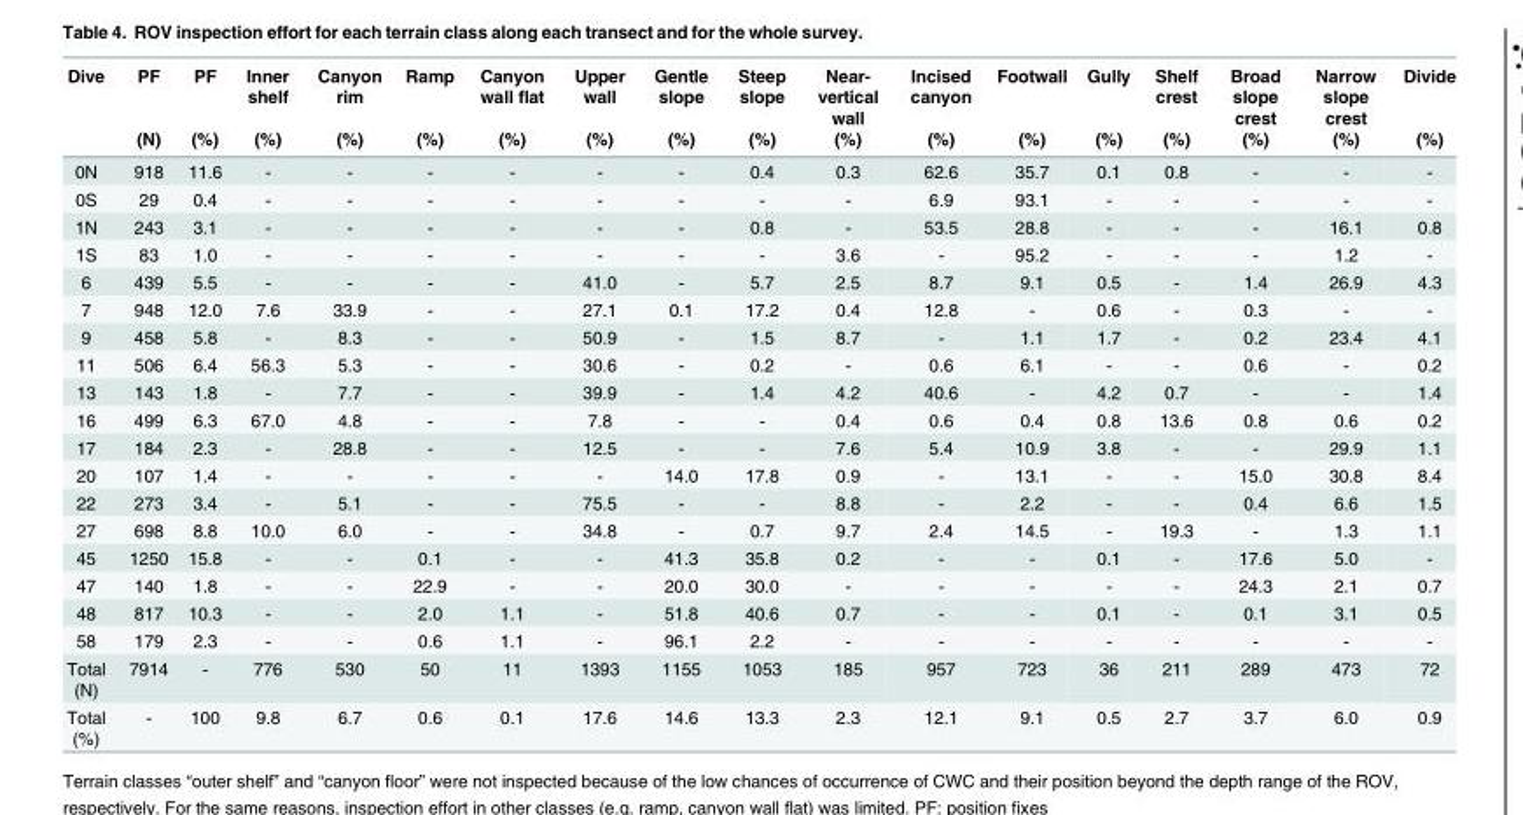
<table><thead><tr><td rowspan="2">Dive</td><td rowspan="2">PF (N)</td><td rowspan="2">PF (%)</td><td rowspan="2">Inner shelf (%)</td><td rowspan="2">Canyon rim (%)</td><td rowspan="2">Ramp (%)</td><td rowspan="2">Canyon wall flat (%)</td><td rowspan="2">Upper wall (%)</td><td rowspan="2">Gentle slope (%)</td><td rowspan="2">Steep slope (%)</td><td rowspan="2">Near- vertical wall (%)</td><td rowspan="2">Incised canyon (%)</td><td rowspan="2">Footwall (%)</td><td rowspan="2">Gully (%)</td><td rowspan="2">Shelf crest (%)</td><td rowspan="2">Broad slope crest (%)</td><td rowspan="2">Narrow slope crest (%)</td><td rowspan="2">Divide (%)</td></tr><tr></tr></thead><tbody><tr><td>0N</td><td>918</td><td>11.6</td><td>-</td><td>-</td><td>-</td><td>-</td><td>-</td><td>-</td><td>0.4</td><td>0.3</td><td>62.6</td><td>35.7</td><td>0.1</td><td>0.8</td><td>-</td><td>-</td><td>-</td></tr><tr><td>0S</td><td>29</td><td>0.4</td><td>-</td><td>-</td><td>-</td><td>-</td><td>-</td><td>-</td><td>-</td><td>-</td><td>6.9</td><td>93.1</td><td>-</td><td>-</td><td>-</td><td>-</td><td>-</td></tr><tr><td>1N</td><td>243</td><td>3.1</td><td>-</td><td>-</td><td>-</td><td>-</td><td>-</td><td>-</td><td>0.8</td><td>-</td><td>53.5</td><td>28.8</td><td>-</td><td>-</td><td>-</td><td>16.1</td><td>0.8</td></tr><tr><td>1S</td><td>83</td><td>1.0</td><td>-</td><td>-</td><td>-</td><td>-</td><td>-</td><td>-</td><td>-</td><td>3.6</td><td>-</td><td>95.2</td><td>-</td><td>-</td><td>-</td><td>1.2</td><td>-</td></tr><tr><td>6</td><td>439</td><td>5.5</td><td>-</td><td>-</td><td>-</td><td>-</td><td>41.0</td><td>-</td><td>5.7</td><td>2.5</td><td>8.7</td><td>9.1</td><td>0.5</td><td>-</td><td>1.4</td><td>26.9</td><td>4.3</td></tr><tr><td>7</td><td>948</td><td>12.0</td><td>7.6</td><td>33.9</td><td>-</td><td>-</td><td>27.1</td><td>0.1</td><td>17.2</td><td>0.4</td><td>12.8</td><td>-</td><td>0.6</td><td>-</td><td>0.3</td><td>-</td><td>-</td></tr><tr><td>9</td><td>458</td><td>5.8</td><td>-</td><td>8.3</td><td>-</td><td>-</td><td>50.9</td><td>-</td><td>1.5</td><td>8.7</td><td>-</td><td>1.1</td><td>1.7</td><td>-</td><td>0.2</td><td>23.4</td><td>4.1</td></tr><tr><td>11</td><td>506</td><td>6.4</td><td>56.3</td><td>5.3</td><td>-</td><td>-</td><td>30.6</td><td>-</td><td>0.2</td><td>-</td><td>0.6</td><td>6.1</td><td>-</td><td>-</td><td>0.6</td><td>-</td><td>0.2</td></tr><tr><td>13</td><td>143</td><td>1.8</td><td>-</td><td>7.7</td><td>-</td><td>-</td><td>39.9</td><td>-</td><td>1.4</td><td>4.2</td><td>40.6</td><td>-</td><td>4.2</td><td>0.7</td><td>-</td><td>-</td><td>1.4</td></tr><tr><td>16</td><td>499</td><td>6.3</td><td>67.0</td><td>4.8</td><td>-</td><td>-</td><td>7.8</td><td>-</td><td>-</td><td>0.4</td><td>0.6</td><td>0.4</td><td>0.8</td><td>13.6</td><td>0.8</td><td>0.6</td><td>0.2</td></tr><tr><td>17</td><td>184</td><td>2.3</td><td>-</td><td>28.8</td><td>-</td><td>-</td><td>12.5</td><td>-</td><td>-</td><td>7.6</td><td>5.4</td><td>10.9</td><td>3.8</td><td>-</td><td>-</td><td>29.9</td><td>1.1</td></tr><tr><td>20</td><td>107</td><td>1.4</td><td>-</td><td>-</td><td>-</td><td>-</td><td>-</td><td>14.0</td><td>17.8</td><td>0.9</td><td>-</td><td>13.1</td><td>-</td><td>-</td><td>15.0</td><td>30.8</td><td>8.4</td></tr><tr><td>22</td><td>273</td><td>3.4</td><td>-</td><td>5.1</td><td>-</td><td>-</td><td>75.5</td><td>-</td><td>-</td><td>8.8</td><td>-</td><td>2.2</td><td>-</td><td>-</td><td>0.4</td><td>6.6</td><td>1.5</td></tr><tr><td>27</td><td>698</td><td>8.8</td><td>10.0</td><td>6.0</td><td>-</td><td>-</td><td>34.8</td><td>-</td><td>0.7</td><td>9.7</td><td>2.4</td><td>14.5</td><td>-</td><td>19.3</td><td>-</td><td>1.3</td><td>1.1</td></tr><tr><td>45</td><td>1250</td><td>15.8</td><td>-</td><td>-</td><td>0.1</td><td>-</td><td>-</td><td>41.3</td><td>35.8</td><td>0.2</td><td>-</td><td>-</td><td>0.1</td><td>-</td><td>17.6</td><td>5.0</td><td>-</td></tr><tr><td>47</td><td>140</td><td>1.8</td><td>-</td><td>-</td><td>22.9</td><td>-</td><td>-</td><td>20.0</td><td>30.0</td><td>-</td><td>-</td><td>-</td><td>-</td><td>-</td><td>24.3</td><td>2.1</td><td>0.7</td></tr><tr><td>48</td><td>817</td><td>10.3</td><td>-</td><td>-</td><td>2.0</td><td>1.1</td><td>-</td><td>51.8</td><td>40.6</td><td>0.7</td><td>-</td><td>-</td><td>0.1</td><td>-</td><td>0.1</td><td>3.1</td><td>0.5</td></tr><tr><td>58</td><td>179</td><td>2.3</td><td>-</td><td>-</td><td>0.6</td><td>1.1</td><td>-</td><td>96.1</td><td>2.2</td><td>-</td><td>-</td><td>-</td><td>-</td><td>-</td><td>-</td><td>-</td><td>-</td></tr><tr><td>Total (N)</td><td>7914</td><td>-</td><td>776</td><td>530</td><td>50</td><td>11</td><td>1393</td><td>1155</td><td>1053</td><td>185</td><td>957</td><td>723</td><td>36</td><td>211</td><td>289</td><td>473</td><td>72</td></tr><tr><td>Total (%)</td><td>-</td><td>100</td><td>9.8</td><td>6.7</td><td>0.6</td><td>0.1</td><td>17.6</td><td>14.6</td><td>13.3</td><td>2.3</td><td>12.1</td><td>9.1</td><td>0.5</td><td>2.7</td><td>3.7</td><td>6.0</td><td>0.9</td></tr></tbody></table>